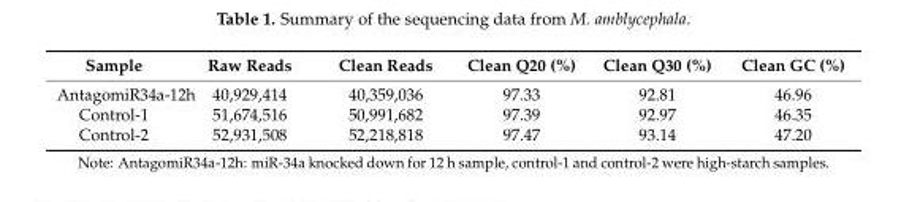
<table><thead><tr><td>Sample</td><td>Raw Reads</td><td>Clean Reads</td><td>Clean Q20 (%)</td><td>Clean Q30 (%)</td><td>Clean GC (%)</td></tr></thead><tbody><tr><td>AntagomiR34a-12h</td><td>40,929,414</td><td>40,359,036</td><td>97.33</td><td>92.81</td><td>46.96</td></tr><tr><td>Control-1</td><td>51,674,516</td><td>50,991,682</td><td>97.39</td><td>92.97</td><td>46.35</td></tr><tr><td>Control-2</td><td>52,931,508</td><td>52,218,818</td><td>97.47</td><td>93.14</td><td>47.20</td></tr></tbody></table>